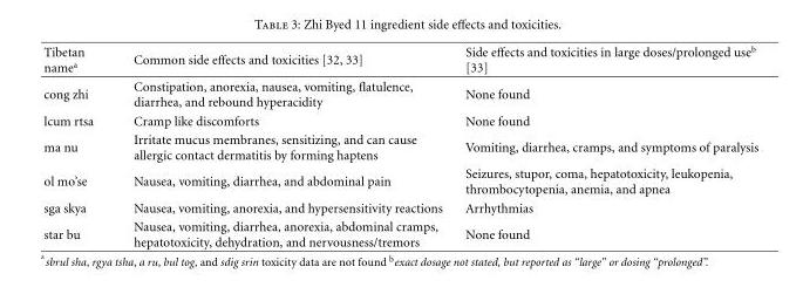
<table><thead><tr><td>Tibetan name<sup>a</sup></td><td>Common side effects and toxicities [32, 33]</td><td>Side effects and toxicities in large doses/prolonged use<sup>b</sup> [33]</td></tr></thead><tbody><tr><td>cong zhi</td><td>Constipation, anorexia, nausea, vomiting, flatulence, diarrhea, and rebound hyperacidity</td><td>None found</td></tr><tr><td>lcum rtsa</td><td>Cramp like discomforts</td><td>None found</td></tr><tr><td>ma nu</td><td>Irritate mucus membranes, sensitizing, and can cause allergic contact dermatitis by forming haptens</td><td>Vomiting, diarrhea, cramps, and symptoms of paralysis</td></tr><tr><td>ol mo’se</td><td>Nausea, vomiting, diarrhea, and abdominal pain</td><td>Seizures, stupor, coma, hepatotoxicity, leukopenia, thrombocytopenia, anemia, and apnea</td></tr><tr><td>sga skya</td><td>Nausea, vomiting, anorexia, and hypersensitivity reactions</td><td>Arrhythmias</td></tr><tr><td>star bu</td><td>Nausea, vomiting, diarrhea, anorexia, abdominal cramps, hepatotoxicity, dehydration, and nervousness/tremors</td><td>None found</td></tr></tbody></table>